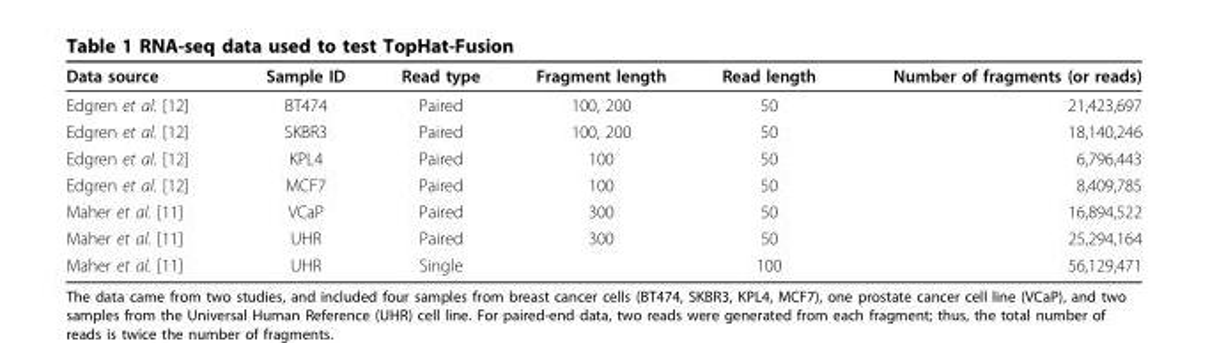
<table><thead><tr><td>Data source</td><td>Sample ID</td><td>Read type</td><td>Fragment length</td><td>Read length</td><td>Number of fragments (or reads)</td></tr></thead><tbody><tr><td>Edgren et al. [12]</td><td>BT474</td><td>Paired</td><td>100, 200</td><td>50</td><td>21,423,697</td></tr><tr><td>Edgren et al. [12]</td><td>SKBR3</td><td>Paired</td><td>100, 200</td><td>50</td><td>18,140,246</td></tr><tr><td>Edgren et al. [12]</td><td>KPL4</td><td>Paired</td><td>100</td><td>50</td><td>6,796,443</td></tr><tr><td>Edgren et al. [12]</td><td>MCF7</td><td>Paired</td><td>100</td><td>50</td><td>8,409,785</td></tr><tr><td>Maher et al. [11]</td><td>VCaP</td><td>Paired</td><td>300</td><td>50</td><td>16,894,522</td></tr><tr><td>Maher et al. [11]</td><td>UHR</td><td>Paired</td><td>300</td><td>50</td><td>25,294,164</td></tr><tr><td>Maher et al. [11]</td><td>UHR</td><td>Single</td><td></td><td>100</td><td>56,129,471</td></tr></tbody></table>